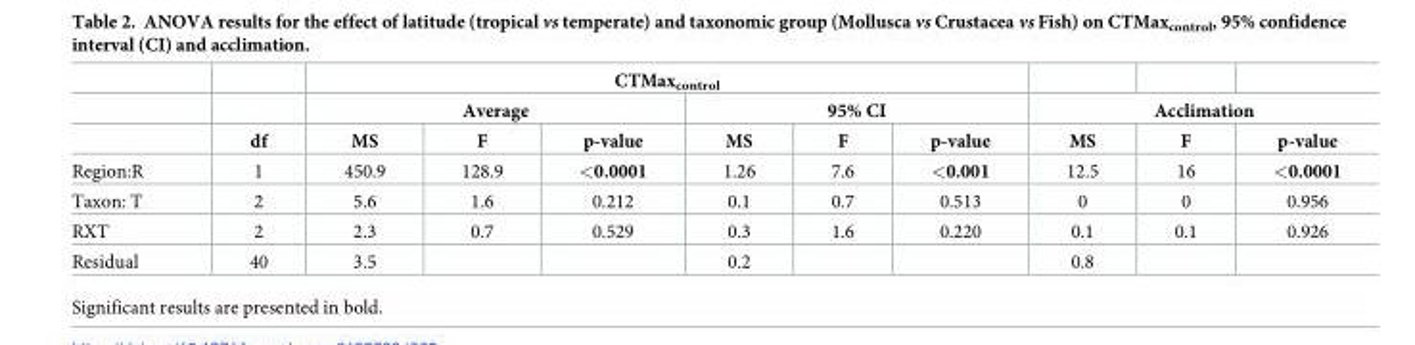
<table><thead><tr><td rowspan="3"></td><td rowspan="3">df</td><td colspan="6">CTMax<sub>control</sub></td><td></td><td></td><td></td></tr><tr><td colspan="3">Average</td><td colspan="3">95% CI</td><td colspan="3">Acclimation</td></tr><tr><td>MS</td><td>F</td><td>p-value</td><td>MS</td><td>F</td><td>p-value</td><td>MS</td><td>F</td><td>p-value</td></tr></thead><tbody><tr><td>Region:R</td><td>1</td><td>450.9</td><td>128.9</td><td>&lt;0.0001</td><td>1.26</td><td>7.6</td><td>&lt;0.001</td><td>12.5</td><td>16</td><td>&lt;0.0001</td></tr><tr><td>Taxon: T</td><td>2</td><td>5.6</td><td>1.6</td><td>0.212</td><td>0.1</td><td>0.7</td><td>0.513</td><td>0</td><td>0</td><td>0.956</td></tr><tr><td>RXT</td><td>2</td><td>2.3</td><td>0.7</td><td>0.529</td><td>0.3</td><td>1.6</td><td>0.220</td><td>0.1</td><td>0.1</td><td>0.926</td></tr><tr><td>Residual</td><td>40</td><td>3.5</td><td></td><td></td><td>0.2</td><td></td><td></td><td>0.8</td><td></td><td></td></tr></tbody></table>